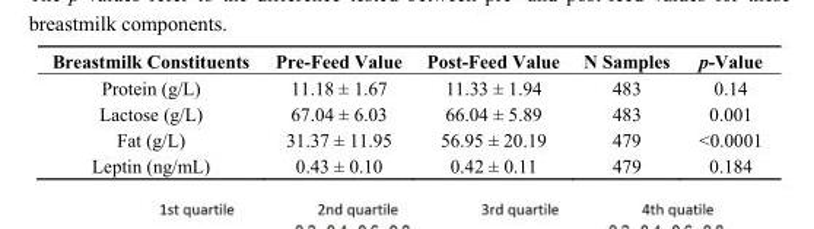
<table><thead><tr><td>Breastmilk Constituents</td><td>Pre-Feed Value</td><td>Post-Feed Value</td><td>N Samples</td><td>p-Value</td></tr></thead><tbody><tr><td>Protein (g/L)</td><td>11.18 ± 1.67</td><td>11.33 ± 1.94</td><td>483</td><td>0.14</td></tr><tr><td>Lactose (g/L)</td><td>67.04 ± 6.03</td><td>66.04 ± 5.89</td><td>483</td><td>0.001</td></tr><tr><td>Fat (g/L)</td><td>31.37 ± 11.95</td><td>56.95 ± 20.19</td><td>479</td><td>&lt;0.0001</td></tr><tr><td>Leptin (ng/mL)</td><td>0.43 ± 0.10</td><td>0.42 ± 0.11</td><td>479</td><td>0.184</td></tr></tbody></table>